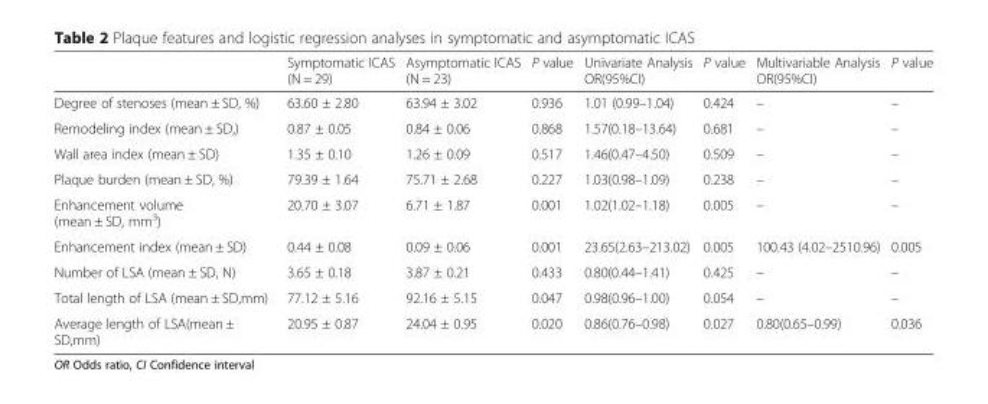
<table><thead><tr><td></td><td>Symptomatic ICAS (N = 29)</td><td>Asymptomatic ICAS (N = 23)</td><td>P value</td><td>Univariate Analysis OR(95%CI)</td><td>P value</td><td>Multivariable Analysis OR(95%CI)</td><td>P value</td></tr></thead><tbody><tr><td>Degree of stenoses (mean ± SD, %)</td><td>63.60 ± 2.80</td><td>63.94 ± 3.02</td><td>0.936</td><td>1.01 (0.99–1.04)</td><td>0.424</td><td>–</td><td>–</td></tr><tr><td>Remodeling index (mean ± SD,)</td><td>0.87 ± 0.05</td><td>0.84 ± 0.06</td><td>0.868</td><td>1.57(0.18–13.64)</td><td>0.681</td><td>–</td><td>–</td></tr><tr><td>Wall area index (mean ± SD)</td><td>1.35 ± 0.10</td><td>1.26 ± 0.09</td><td>0.517</td><td>1.46(0.47–4.50)</td><td>0.509</td><td>–</td><td>–</td></tr><tr><td>Plaque burden (mean ± SD, %)</td><td>79.39 ± 1.64</td><td>75.71 ± 2.68</td><td>0.227</td><td>1.03(0.98–1.09)</td><td>0.238</td><td>–</td><td>–</td></tr><tr><td>Enhancement volume (mean ± SD, mm<sup>3</sup>)</td><td>20.70 ± 3.07</td><td>6.71 ± 1.87</td><td>0.001</td><td>1.02(1.02–1.18)</td><td>0.005</td><td>–</td><td>–</td></tr><tr><td>Enhancement index (mean ± SD)</td><td>0.44 ± 0.08</td><td>0.09 ± 0.06</td><td>0.001</td><td>23.65(2.63–213.02)</td><td>0.005</td><td>100.43 (4.02–2510.96)</td><td>0.005</td></tr><tr><td>Number of LSA (mean ± SD, N)</td><td>3.65 ± 0.18</td><td>3.87 ± 0.21</td><td>0.433</td><td>0.80(0.44–1.41)</td><td>0.425</td><td>–</td><td>–</td></tr><tr><td>Total length of LSA (mean ± SD,mm)</td><td>77.12 ± 5.16</td><td>92.16 ± 5.15</td><td>0.047</td><td>0.98(0.96–1.00)</td><td>0.054</td><td>–</td><td>–</td></tr><tr><td>Average length of LSA(mean ± SD,mm)</td><td>20.95 ± 0.87</td><td>24.04 ± 0.95</td><td>0.020</td><td>0.86(0.76–0.98)</td><td>0.027</td><td>0.80(0.65–0.99)</td><td>0.036</td></tr></tbody></table>